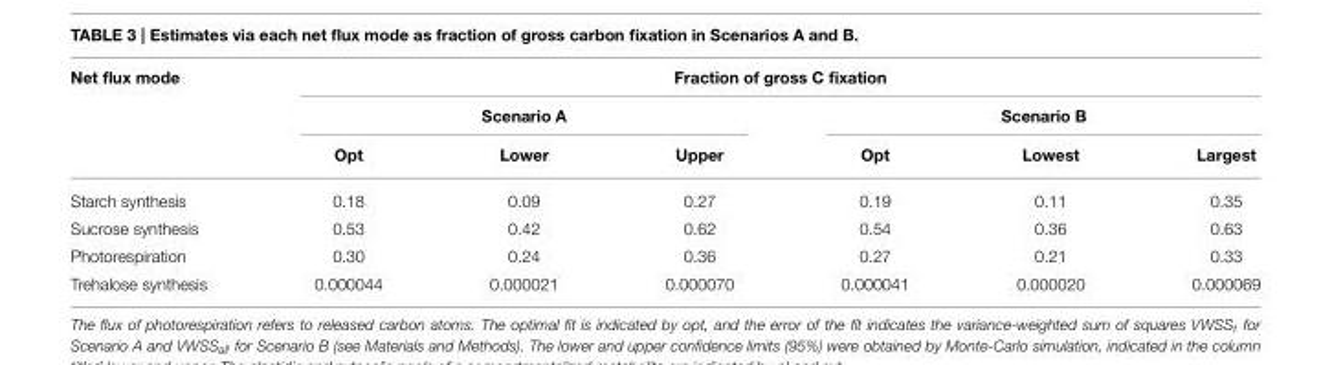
<table><thead><tr><td rowspan="3">Net flux mode</td><td colspan="6">Fraction of gross C fixation</td></tr><tr><td colspan="3">Scenario A</td><td colspan="3">Scenario B</td></tr><tr><td>Opt</td><td>Lower</td><td>Upper</td><td>Opt</td><td>Lowest</td><td>Largest</td></tr></thead><tbody><tr><td>Starch synthesis</td><td>0.18</td><td>0.09</td><td>0.27</td><td>0.19</td><td>0.11</td><td>0.35</td></tr><tr><td>Sucrose synthesis</td><td>0.53</td><td>0.42</td><td>0.62</td><td>0.54</td><td>0.36</td><td>0.63</td></tr><tr><td>Photorespiration</td><td>0.30</td><td>0.24</td><td>0.36</td><td>0.27</td><td>0.21</td><td>0.33</td></tr><tr><td>Trehalose synthesis</td><td>0.000044</td><td>0.000021</td><td>0.000070</td><td>0.000041</td><td>0.000020</td><td>0.000069</td></tr></tbody></table>